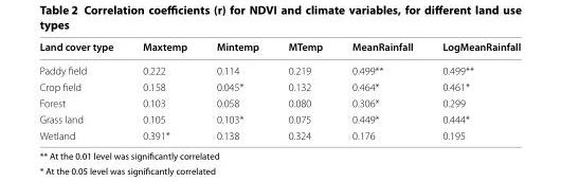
<table><thead><tr><td>Land cover type</td><td>Maxtemp</td><td>Mintemp</td><td>MTemp</td><td>MeanRainfall</td><td>LogMeanRainfall</td></tr></thead><tbody><tr><td>Paddy field</td><td>0.222</td><td>0.114</td><td>0.219</td><td>0.499**</td><td>0.499**</td></tr><tr><td>Crop field</td><td>0.158</td><td>0.045*</td><td>0.132</td><td>0.464*</td><td>0.461*</td></tr><tr><td>Forest</td><td>0.103</td><td>0.058</td><td>0.080</td><td>0.306*</td><td>0.299</td></tr><tr><td>Grass land</td><td>0.105</td><td>0.103*</td><td>0.075</td><td>0.449*</td><td>0.444*</td></tr><tr><td>Wetland</td><td>0.391*</td><td>0.138</td><td>0.324</td><td>0.176</td><td>0.195</td></tr></tbody></table>